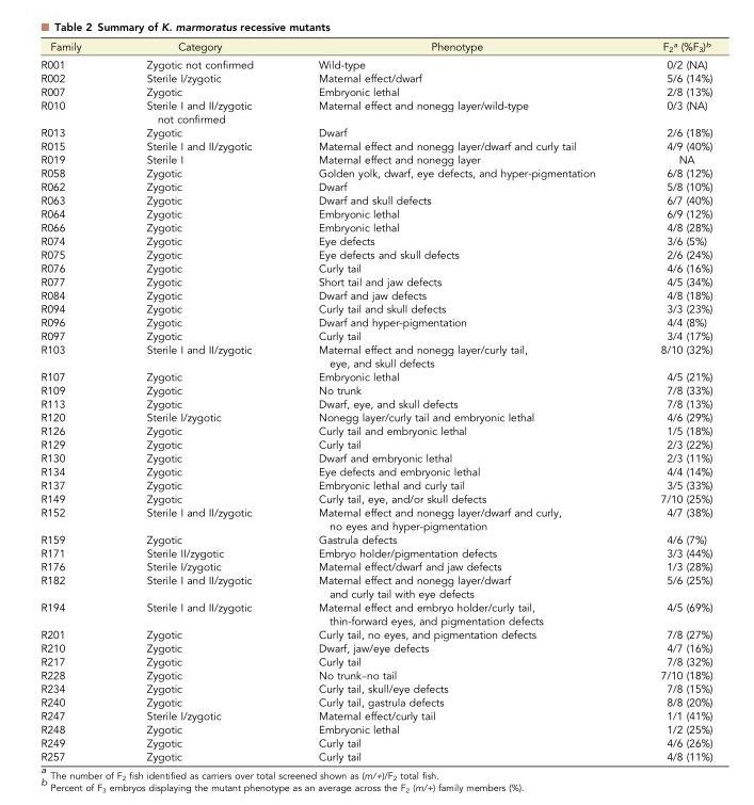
<table><thead><tr><td>Family</td><td>Category</td><td>Phenotype</td><td>F<sub>2</sub><sup>a</sup> (%F<sub>3</sub>)<sup>b</sup></td></tr></thead><tbody><tr><td>R001</td><td>Zygotic not confirmed</td><td>Wild-type</td><td>0/2 (NA)</td></tr><tr><td>R002</td><td>Sterile I/zygotic</td><td>Maternal effect/dwarf</td><td>5/6 (14%)</td></tr><tr><td>R007</td><td>Zygotic</td><td>Embryonic lethal</td><td>2/8 (13%)</td></tr><tr><td>R010</td><td>Sterile I and II/zygotic not confirmed</td><td>Maternal effect and nonegg layer/wild-type</td><td>0/3 (NA)</td></tr><tr><td>R013</td><td>Zygotic</td><td>Dwarf</td><td>2/6 (18%)</td></tr><tr><td>R015</td><td>Sterile I and II/zygotic</td><td>Maternal effect and nonegg layer/dwarf and curly tail</td><td>4/9 (40%)</td></tr><tr><td>R019</td><td>Sterile I</td><td>Maternal effect and nonegg layer</td><td>NA</td></tr><tr><td>R058</td><td>Zygotic</td><td>Golden yolk, dwarf, eye defects, and hyper-pigmentation</td><td>6/8 (12%)</td></tr><tr><td>R062</td><td>Zygotic</td><td>Dwarf</td><td>5/8 (10%)</td></tr><tr><td>R063</td><td>Zygotic</td><td>Dwarf and skull defects</td><td>6/7 (40%)</td></tr><tr><td>R064</td><td>Zygotic</td><td>Embryonic lethal</td><td>6/9 (12%)</td></tr><tr><td>R066</td><td>Zygotic</td><td>Embryonic lethal</td><td>4/8 (28%)</td></tr><tr><td>R074</td><td>Zygotic</td><td>Eye defects</td><td>3/6 (5%)</td></tr><tr><td>R075</td><td>Zygotic</td><td>Eye defects and skull defects</td><td>2/6 (24%)</td></tr><tr><td>R076</td><td>Zygotic</td><td>Curly tail</td><td>4/6 (16%)</td></tr><tr><td>R077</td><td>Zygotic</td><td>Short tail and jaw defects</td><td>4/5 (34%)</td></tr><tr><td>R084</td><td>Zygotic</td><td>Dwarf and jaw defects</td><td>4/8 (18%)</td></tr><tr><td>R094</td><td>Zygotic</td><td>Curly tail and skull defects</td><td>3/3 (23%)</td></tr><tr><td>R096</td><td>Zygotic</td><td>Dwarf and hyper-pigmentation</td><td>4/4 (8%)</td></tr><tr><td>R097</td><td>Zygotic</td><td>Curly tail</td><td>3/4 (17%)</td></tr><tr><td>R103</td><td>Sterile I and II/zygotic</td><td>Maternal effect and nonegg layer/curly tail, eye, and skull defects</td><td>8/10 (32%)</td></tr><tr><td>R107</td><td>Zygotic</td><td>Embryonic lethal</td><td>4/5 (21%)</td></tr><tr><td>R109</td><td>Zygotic</td><td>No trunk</td><td>7/8 (33%)</td></tr><tr><td>R113</td><td>Zygotic</td><td>Dwarf, eye, and skull defects</td><td>7/8 (13%)</td></tr><tr><td>R120</td><td>Sterile I/zygotic</td><td>Nonegg layer/curly tail and embryonic lethal</td><td>4/6 (29%)</td></tr><tr><td>R126</td><td>Zygotic</td><td>Curly tail and embryonic lethal</td><td>1/5 (18%)</td></tr><tr><td>R129</td><td>Zygotic</td><td>Curly tail</td><td>2/3 (22%)</td></tr><tr><td>R130</td><td>Zygotic</td><td>Dwarf and embryonic lethal</td><td>2/3 (11%)</td></tr><tr><td>R134</td><td>Zygotic</td><td>Eye defects and embryonic lethal</td><td>4/4 (14%)</td></tr><tr><td>R137</td><td>Zygotic</td><td>Embryonic lethal and curly tail</td><td>3/5 (33%)</td></tr><tr><td>R149</td><td>Zygotic</td><td>Curly tail, eye, and/or skull defects</td><td>7/10 (25%)</td></tr><tr><td>R152</td><td>Sterile I and II/zygotic</td><td>Maternal effect and nonegg layer/dwarf and curly, no eyes and hyper-pigmentation</td><td>4/7 (38%)</td></tr><tr><td>R159</td><td>Zygotic</td><td>Gastrula defects</td><td>4/6 (7%)</td></tr><tr><td>R171</td><td>Sterile II/zygotic</td><td>Embryo holder/pigmentation defects</td><td>3/3 (44%)</td></tr><tr><td>R176</td><td>Sterile I/zygotic</td><td>Maternal effect/dwarf and jaw defects</td><td>1/3 (28%)</td></tr><tr><td>R182</td><td>Sterile I and II/zygotic</td><td>Maternal effect and nonegg layer/dwarf and curly tail with eye defects</td><td>5/6 (25%)</td></tr><tr><td>R194</td><td>Sterile I and II/zygotic</td><td>Maternal effect and embryo holder/curly tail, thin-forward eyes, and pigmentation defects</td><td>4/5 (69%)</td></tr><tr><td>R201</td><td>Zygotic</td><td>Curly tail, no eyes, and pigmentation defects</td><td>7/8 (27%)</td></tr><tr><td>R210</td><td>Zygotic</td><td>Dwarf, jaw/eye defects</td><td>4/7 (16%)</td></tr><tr><td>R217</td><td>Zygotic</td><td>Curly tail</td><td>7/8 (32%)</td></tr><tr><td>R228</td><td>Zygotic</td><td>No trunk–no tail</td><td>7/10 (18%)</td></tr><tr><td>R234</td><td>Zygotic</td><td>Curly tail, skull/eye defects</td><td>7/8 (15%)</td></tr><tr><td>R240</td><td>Zygotic</td><td>Curly tail, gastrula defects</td><td>8/8 (20%)</td></tr><tr><td>R247</td><td>Sterile I/zygotic</td><td>Maternal effect/curly tail</td><td>1/1 (41%)</td></tr><tr><td>R248</td><td>Zygotic</td><td>Embryonic lethal</td><td>1/2 (25%)</td></tr><tr><td>R249</td><td>Zygotic</td><td>Curly tail</td><td>4/6 (26%)</td></tr><tr><td>R257</td><td>Zygotic</td><td>Curly tail</td><td>4/8 (11%)</td></tr></tbody></table>